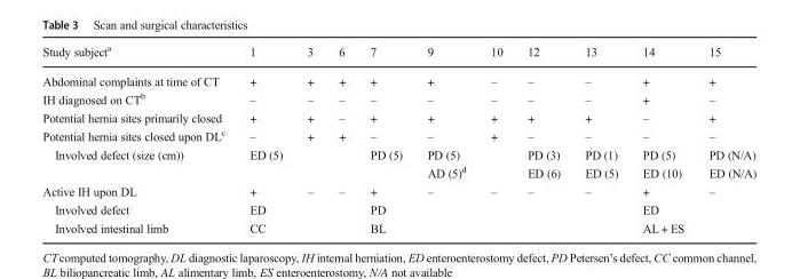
<table><thead><tr><td>Study subject<sup>a</sup></td><td>1</td><td>3</td><td>6</td><td>7</td><td>9</td><td>10</td><td>12</td><td>13</td><td>14</td><td>15</td></tr></thead><tbody><tr><td>Abdominal complaints at time of CT</td><td>+</td><td>+</td><td>+</td><td>+</td><td>+</td><td>–</td><td>–</td><td>–</td><td>+</td><td>+</td></tr><tr><td>IH diagnosed on CT<sup>b</sup></td><td>–</td><td>–</td><td>–</td><td>–</td><td>–</td><td>–</td><td>–</td><td>–</td><td>+</td><td>–</td></tr><tr><td>Potential hernia sites primarily closed</td><td>+</td><td>+</td><td>–</td><td>+</td><td>+</td><td>+</td><td>+</td><td>+</td><td>–</td><td>+</td></tr><tr><td>Potential hernia sites closed upon DL<sup>c</sup></td><td>–</td><td>+</td><td>+</td><td>–</td><td>–</td><td>+</td><td>–</td><td>–</td><td>–</td><td>–</td></tr><tr><td rowspan="2">Involved defect (size (cm))</td><td>ED (5)</td><td></td><td></td><td>PD (5)</td><td>PD (5)</td><td></td><td>PD (3)</td><td>PD (1)</td><td>PD (5)</td><td>PD (N/A)</td></tr><tr><td></td><td></td><td></td><td></td><td>AD (5)<sup>d</sup></td><td></td><td>ED (6)</td><td>ED (5)</td><td>ED (10)</td><td>ED (N/A)</td></tr><tr><td>Active IH upon DL</td><td>+</td><td>–</td><td>–</td><td>+</td><td>–</td><td>–</td><td>–</td><td>–</td><td>+</td><td>–</td></tr><tr><td>Involved defect</td><td>ED</td><td></td><td></td><td>PD</td><td></td><td></td><td></td><td></td><td>ED</td><td></td></tr><tr><td>Involved intestinal limb</td><td>CC</td><td></td><td></td><td>BL</td><td></td><td></td><td></td><td></td><td>AL + ES</td><td></td></tr></tbody></table>